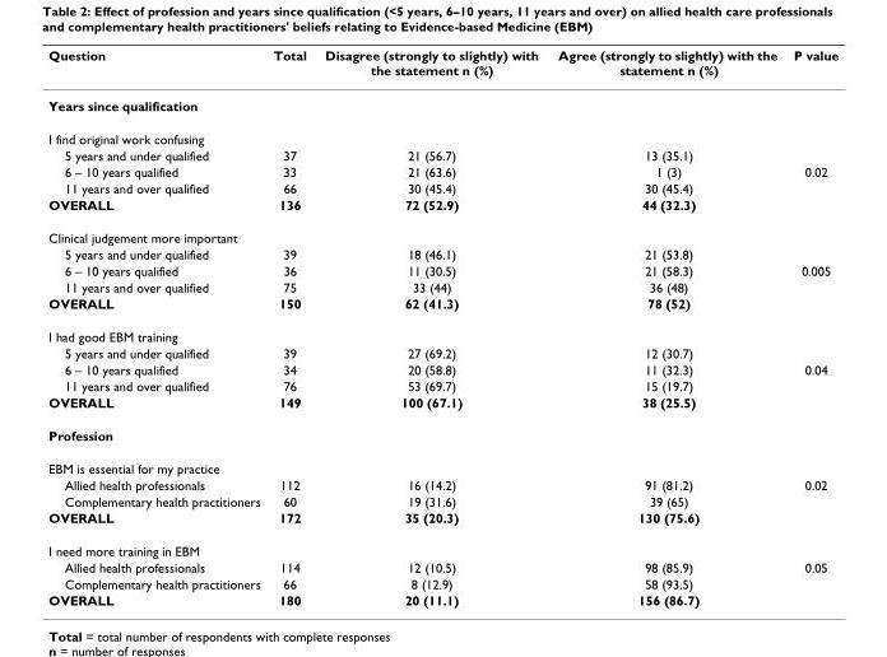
<table><thead><tr><td>Question</td><td>Total</td><td>Disagree (strongly to slightly) with the statement n (%)</td><td>Agree (strongly to slightly) with the statement n (%)</td><td>P value</td></tr></thead><tbody><tr><td colspan="5">Years since qualification</td></tr><tr><td colspan="5">I find original work confusing</td></tr><tr><td>5 years and under qualified</td><td>37</td><td>21 (56.7)</td><td>13 (35.1)</td><td></td></tr><tr><td>6 – 10 years qualified</td><td>33</td><td>21 (63.6)</td><td>1 (3)</td><td>0.02</td></tr><tr><td>11 years and over qualified</td><td>66</td><td>30 (45.4)</td><td>30 (45.4)</td><td></td></tr><tr><td>OVERALL</td><td>136</td><td>72 (52.9)</td><td>44 (32.3)</td><td></td></tr><tr><td colspan="5">Clinical judgement more important</td></tr><tr><td>5 years and under qualified</td><td>39</td><td>18 (46.1)</td><td>21 (53.8)</td><td></td></tr><tr><td>6 – 10 years qualified</td><td>36</td><td>11 (30.5)</td><td>21 (58.3)</td><td>0.005</td></tr><tr><td>11 years and over qualified</td><td>75</td><td>33 (44)</td><td>36 (48)</td><td></td></tr><tr><td>OVERALL</td><td>150</td><td>62 (41.3)</td><td>78 (52)</td><td></td></tr><tr><td colspan="5">I had good EBM training</td></tr><tr><td>5 years and under qualified</td><td>39</td><td>27 (69.2)</td><td>12 (30.7)</td><td></td></tr><tr><td>6 – 10 years qualified</td><td>34</td><td>20 (58.8)</td><td>11 (32.3)</td><td>0.04</td></tr><tr><td>11 years and over qualified</td><td>76</td><td>53 (69.7)</td><td>15 (19.7)</td><td></td></tr><tr><td>OVERALL</td><td>149</td><td>100 (67.1)</td><td>38 (25.5)</td><td></td></tr><tr><td colspan="5">Profession</td></tr><tr><td colspan="5">EBM is essential for my practice</td></tr><tr><td>Allied health professionals</td><td>112</td><td>16 (14.2)</td><td>91 (81.2)</td><td>0.02</td></tr><tr><td>Complementary health practitioners</td><td>60</td><td>19 (31.6)</td><td>39 (65)</td><td></td></tr><tr><td>OVERALL</td><td>172</td><td>35 (20.3)</td><td>130 (75.6)</td><td></td></tr><tr><td colspan="5">I need more training in EBM</td></tr><tr><td>Allied health professionals</td><td>114</td><td>12 (10.5)</td><td>98 (85.9)</td><td>0.05</td></tr><tr><td>Complementary health practitioners</td><td>66</td><td>8 (12.9)</td><td>58 (93.5)</td><td></td></tr><tr><td>OVERALL</td><td>180</td><td>20 (11.1)</td><td>156 (86.7)</td><td></td></tr></tbody></table>